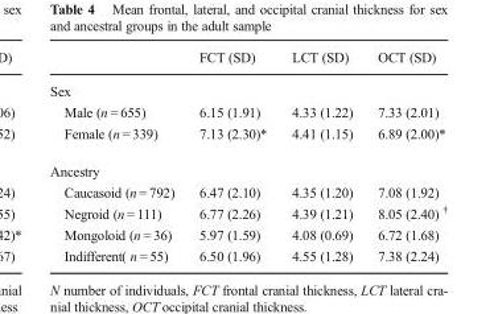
<table><thead><tr><td></td><td>FCT (SD)</td><td>LCT (SD)</td><td>OCT (SD)</td></tr></thead><tbody><tr><td colspan="4">Sex</td></tr><tr><td>Male (n = 655)</td><td>6.15 (1.91)</td><td>4.33 (1.22)</td><td>7.33 (2.01)</td></tr><tr><td>Female (n = 339)</td><td>7.13 (2.30)*</td><td>4.41 (1.15)</td><td>6.89 (2.00)*</td></tr><tr><td colspan="4">Ancestry</td></tr><tr><td>Caucasoid (n = 792)</td><td>6.47 (2.10)</td><td>4.35 (1.20)</td><td>7.08 (1.92)</td></tr><tr><td>Negroid (n = 111)</td><td>6.77 (2.26)</td><td>4.39 (1.21)</td><td>8.05 (2.40) †</td></tr><tr><td>Mongoloid (n = 36)</td><td>5.97 (1.59)</td><td>4.08 (0.69)</td><td>6.72 (1.68)</td></tr><tr><td>Indifferent( n = 55)</td><td>6.50 (1.96)</td><td>4.55 (1.28)</td><td>7.38 (2.24)</td></tr></tbody></table>